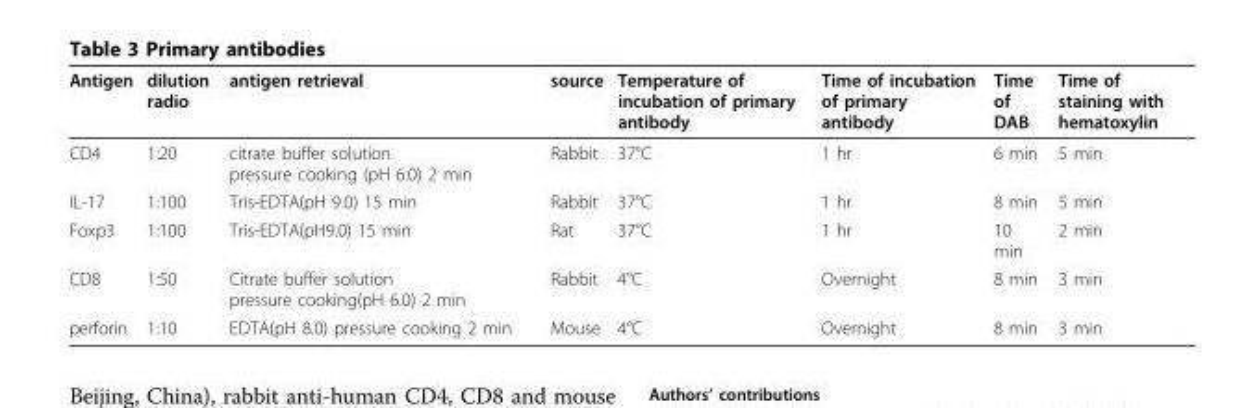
<table><thead><tr><td>Antigen</td><td>dilution radio</td><td>antigen retrieval</td><td>source</td><td>Temperature of incubation of primary antibody</td><td>Time of incubation of primary antibody</td><td>Time of DAB</td><td>Time of staining with hematoxylin</td></tr></thead><tbody><tr><td>CD4</td><td>1:20</td><td>citrate buffer solution pressure cooking (pH 6.0) 2 min</td><td>Rabbit</td><td>37°C</td><td>1 hr</td><td>6 min</td><td>5 min</td></tr><tr><td>IL-17</td><td>1:100</td><td>Tris-EDTA(pH 9.0) 15 min</td><td>Rabbit</td><td>37°C</td><td>1 hr</td><td>8 min</td><td>5 min</td></tr><tr><td>Foxp3</td><td>1:100</td><td>Tris-EDTA(pH9.0) 15 min</td><td>Rat</td><td>37°C</td><td>1 hr</td><td>10 min</td><td>2 min</td></tr><tr><td>CD8</td><td>1:50</td><td>Citrate buffer solution pressure cooking(pH 6.0) 2 min</td><td>Rabbit</td><td>4°C</td><td>Overnight</td><td>8 min</td><td>3 min</td></tr><tr><td>perforin</td><td>1:10</td><td>EDTA(pH 8.0) pressure cooking 2 min</td><td>Mouse</td><td>4°C</td><td>Overnight</td><td>8 min</td><td>3 min</td></tr></tbody></table>